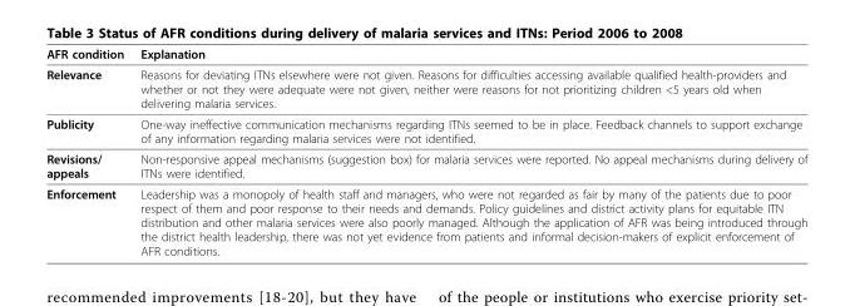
<table><thead><tr><td>AFR condition</td><td>Explanation</td></tr></thead><tbody><tr><td>Relevance</td><td>Reasons for deviating ITNs elsewhere were not given. Reasons for difficulties accessing available qualified health-providers and whether or not they were adequate were not given, neither were reasons for not prioritizing children &lt;5 years old when delivering malaria services.</td></tr><tr><td>Publicity</td><td>One-way ineffective communication mechanisms regarding ITNs seemed to be in place. Feedback channels to support exchange of any information regarding malaria services were not identified.</td></tr><tr><td>Revisions/ appeals</td><td>Non-responsive appeal mechanisms (suggestion box) for malaria services were reported. No appeal mechanisms during delivery of ITNs were identified.</td></tr><tr><td>Enforcement</td><td>Leadership was a monopoly of health staff and managers, who were not regarded as fair by many of the patients due to poor respect of them and poor response to their needs and demands. Policy guidelines and district activity plans for equitable ITN distribution and other malaria services were also poorly managed. Although the application of AFR was being introduced through the district health leadership, there was not yet evidence from patients and informal decision-makers of explicit enforcement of AFR conditions.</td></tr></tbody></table>